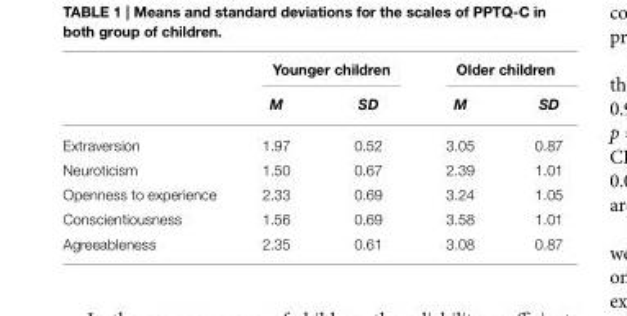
<table><thead><tr><td rowspan="2"></td><td colspan="2">Younger children</td><td colspan="2">Older children</td></tr><tr><td>M</td><td>SD</td><td>M</td><td>SD</td></tr></thead><tbody><tr><td>Extraversion</td><td>1.97</td><td>0.52</td><td>3.05</td><td>0.87</td></tr><tr><td>Neuroticism</td><td>1.50</td><td>0.67</td><td>2.39</td><td>1.01</td></tr><tr><td>Openness to experience</td><td>2.33</td><td>0.69</td><td>3.24</td><td>1.05</td></tr><tr><td>Conscientiousness</td><td>1.56</td><td>0.69</td><td>3.58</td><td>1.01</td></tr><tr><td>Agreeableness</td><td>2.35</td><td>0.61</td><td>3.08</td><td>0.87</td></tr></tbody></table>